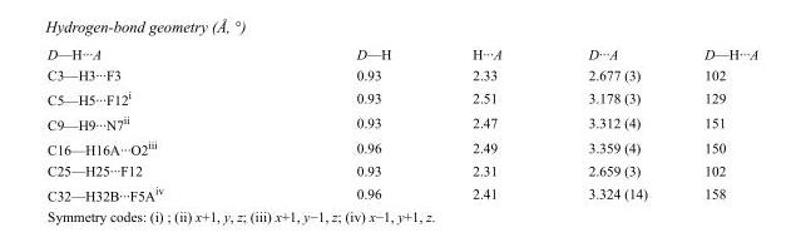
<table><tbody><tr><td>D—H···A</td><td>D—H</td><td>H···A</td><td>D···A</td><td>D—H···A</td></tr><tr><td>C3—H3···F3</td><td>0.93</td><td>2.33</td><td>2.677 (3)</td><td>102</td></tr><tr><td>C5—H5···F12<sup>i</sup></td><td>0.93</td><td>2.51</td><td>3.178 (3)</td><td>129</td></tr><tr><td>C9—H9···N7<sup>ii</sup></td><td>0.93</td><td>2.47</td><td>3.312 (4)</td><td>151</td></tr><tr><td>C16—H16A···O2<sup>iii</sup></td><td>0.96</td><td>2.49</td><td>3.359 (4)</td><td>150</td></tr><tr><td>C25—H25···F12</td><td>0.93</td><td>2.31</td><td>2.659 (3)</td><td>102</td></tr><tr><td>C32—H32B···F5A<sup>iv</sup></td><td>0.96</td><td>2.41</td><td>3.324 (14)</td><td>158</td></tr></tbody></table>